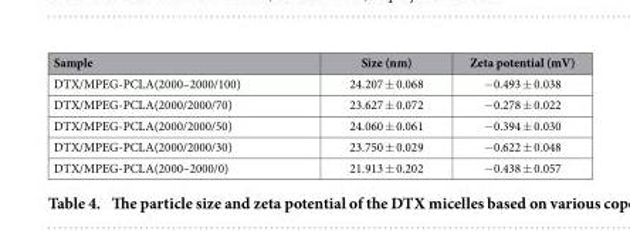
<table><thead><tr><td>Sample</td><td>Size (nm)</td><td>Zeta potential (mV)</td></tr></thead><tbody><tr><td>DTX/MPEG-PCLA(2000–2000/100)</td><td>24.207 ± 0.068</td><td>− 0.493 ± 0.038</td></tr><tr><td>DTX/MPEG-PCLA(2000/2000/70)</td><td>23.627 ± 0.072</td><td>− 0.278 ± 0.022</td></tr><tr><td>DTX/MPEG-PCLA(2000/2000/50)</td><td>24.060 ± 0.061</td><td>− 0.394 ± 0.030</td></tr><tr><td>DTX/MPEG-PCLA(2000/2000/30)</td><td>23.750 ± 0.029</td><td>− 0.622 ± 0.048</td></tr><tr><td>DTX/MPEG-PCLA(2000–2000/0)</td><td>21.913 ± 0.202</td><td>− 0.438 ± 0.057</td></tr></tbody></table>